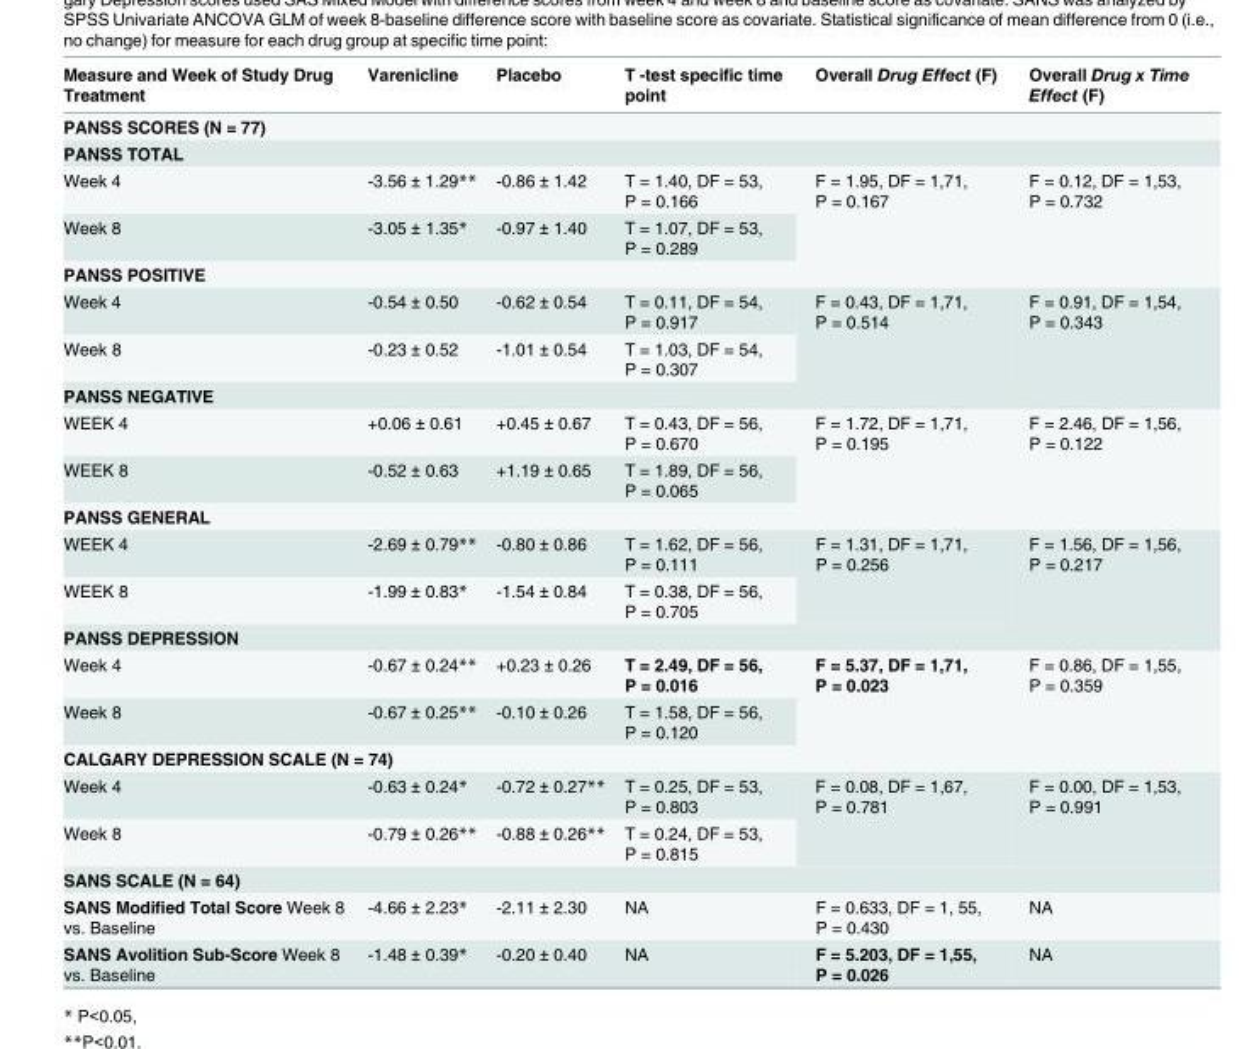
<table><thead><tr><td>Measure and Week of Study Drug Treatment</td><td>Varenicline</td><td>Placebo</td><td>T -test specific time point</td><td>Overall Drug Effect (F)</td><td>Overall Drug x Time Effect (F)</td></tr></thead><tbody><tr><td colspan="6">PANSS SCORES (N = 77)</td></tr><tr><td colspan="6">PANSS TOTAL</td></tr><tr><td>Week 4</td><td>-3.56 ± 1.29**</td><td>-0.86 ± 1.42</td><td>T = 1.40, DF = 53, P = 0.166</td><td rowspan="2">F = 1.95, DF = 1,71, P = 0.167</td><td rowspan="2">F = 0.12, DF = 1,53, P = 0.732</td></tr><tr><td>Week 8</td><td>-3.05 ± 1.35*</td><td>-0.97 ± 1.40</td><td>T = 1.07, DF = 53, P = 0.289</td></tr><tr><td colspan="6">PANSS POSITIVE</td></tr><tr><td>Week 4</td><td>-0.54 ± 0.50</td><td>-0.62 ± 0.54</td><td>T = 0.11, DF = 54, P = 0.917</td><td rowspan="2">F = 0.43, DF = 1,71, P = 0.514</td><td rowspan="2">F = 0.91, DF = 1,54, P = 0.343</td></tr><tr><td>Week 8</td><td>-0.23 ± 0.52</td><td>-1.01 ± 0.54</td><td>T = 1.03, DF = 54, P = 0.307</td></tr><tr><td colspan="6">PANSS NEGATIVE</td></tr><tr><td>WEEK 4</td><td>+0.06 ± 0.61</td><td>+0.45 ± 0.67</td><td>T = 0.43, DF = 56, P = 0.670</td><td rowspan="2">F = 1.72, DF = 1,71, P = 0.195</td><td rowspan="2">F = 2.46, DF = 1,56, P = 0.122</td></tr><tr><td>WEEK 8</td><td>-0.52 ± 0.63</td><td>+1.19 ± 0.65</td><td>T = 1.89, DF = 56, P = 0.065</td></tr><tr><td colspan="6">PANSS GENERAL</td></tr><tr><td>WEEK 4</td><td>-2.69 ± 0.79**</td><td>-0.80 ± 0.86</td><td>T = 1.62, DF = 56, P = 0.111</td><td rowspan="2">F = 1.31, DF = 1,71, P = 0.256</td><td rowspan="2">F = 1.56, DF = 1,56, P = 0.217</td></tr><tr><td>WEEK 8</td><td>-1.99 ± 0.83*</td><td>-1.54 ± 0.84</td><td>T = 0.38, DF = 56, P = 0.705</td></tr><tr><td colspan="6">PANSS DEPRESSION</td></tr><tr><td>Week 4</td><td>-0.67 ± 0.24**</td><td>+0.23 ± 0.26</td><td>T = 2.49, DF = 56, P = 0.016</td><td rowspan="2">F = 5.37, DF = 1,71, P = 0.023</td><td rowspan="2">F = 0.86, DF = 1,55, P = 0.359</td></tr><tr><td>Week 8</td><td>-0.67 ± 0.25**</td><td>-0.10 ± 0.26</td><td>T = 1.58, DF = 56, P = 0.120</td></tr><tr><td colspan="6">CALGARY DEPRESSION SCALE (N = 74)</td></tr><tr><td>Week 4</td><td>-0.63 ± 0.24*</td><td>-0.72 ± 0.27**</td><td>T = 0.25, DF = 53, P = 0.803</td><td rowspan="2">F = 0.08, DF = 1,67, P = 0.781</td><td rowspan="2">F = 0.00, DF = 1,53, P = 0.991</td></tr><tr><td>Week 8</td><td>-0.79 ± 0.26**</td><td>-0.88 ± 0.26**</td><td>T = 0.24, DF = 53, P = 0.815</td></tr><tr><td colspan="6">SANS SCALE (N = 64)</td></tr><tr><td>SANS Modified Total Score Week 8 vs. Baseline</td><td>-4.66 ± 2.23*</td><td>-2.11 ± 2.30</td><td>NA</td><td>F = 0.633, DF = 1, 55, P = 0.430</td><td>NA</td></tr><tr><td>SANS Avolition Sub-Score Week 8 vs. Baseline</td><td>-1.48 ± 0.39*</td><td>-0.20 ± 0.40</td><td>NA</td><td>F = 5.203, DF = 1,55, P = 0.026</td><td>NA</td></tr></tbody></table>